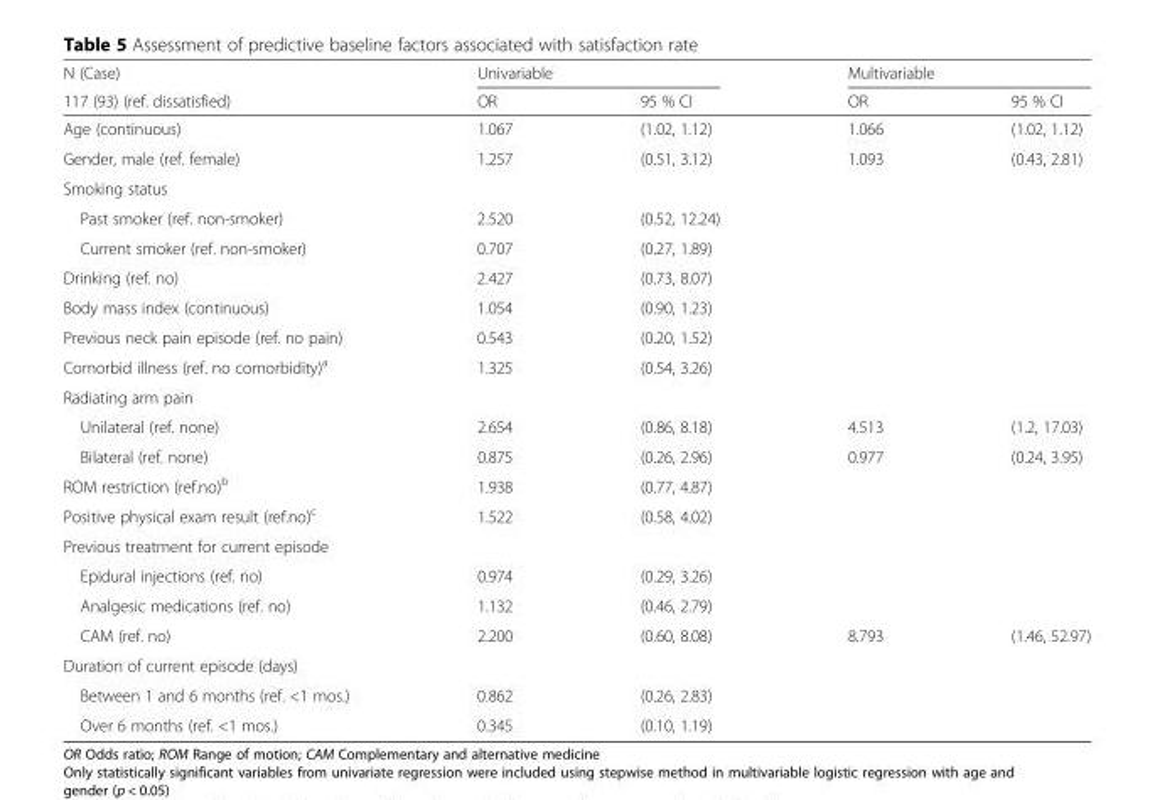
<table><thead><tr><td rowspan="2">N (Case) 117 (93) (ref. dissatisfied)</td><td colspan="2">Univariable</td><td colspan="2">Multivariable</td></tr><tr><td>OR</td><td>95 % CI</td><td>OR</td><td>95 % CI</td></tr></thead><tbody><tr><td>Age (continuous)</td><td>1.067</td><td>(1.02, 1.12)</td><td>1.066</td><td>(1.02, 1.12)</td></tr><tr><td>Gender, male (ref. female)</td><td>1.257</td><td>(0.51, 3.12)</td><td>1.093</td><td>(0.43, 2.81)</td></tr><tr><td colspan="5">Smoking status</td></tr><tr><td>Past smoker (ref. non-smoker)</td><td>2.520</td><td>(0.52, 12.24)</td><td></td><td></td></tr><tr><td>Current smoker (ref. non-smoker)</td><td>0.707</td><td>(0.27, 1.89)</td><td></td><td></td></tr><tr><td>Drinking (ref. no)</td><td>2.427</td><td>(0.73, 8.07)</td><td></td><td></td></tr><tr><td>Body mass index (continuous)</td><td>1.054</td><td>(0.90, 1.23)</td><td></td><td></td></tr><tr><td>Previous neck pain episode (ref. no pain)</td><td>0.543</td><td>(0.20, 1.52)</td><td></td><td></td></tr><tr><td>Comorbid illness (ref. no comorbidity)<sup>a</sup></td><td>1.325</td><td>(0.54, 3.26)</td><td></td><td></td></tr><tr><td colspan="5">Radiating arm pain</td></tr><tr><td>Unilateral (ref. none)</td><td>2.654</td><td>(0.86, 8.18)</td><td>4.513</td><td>(1.2, 17.03)</td></tr><tr><td>Bilateral (ref. none)</td><td>0.875</td><td>(0.26, 2.96)</td><td>0.977</td><td>(0.24, 3.95)</td></tr><tr><td>ROM restriction (ref.no)<sup>b</sup></td><td>1.938</td><td>(0.77, 4.87)</td><td></td><td></td></tr><tr><td>Positive physical exam result (ref.no)<sup>c</sup></td><td>1.522</td><td>(0.58, 4.02)</td><td></td><td></td></tr><tr><td colspan="5">Previous treatment for current episode</td></tr><tr><td>Epidural injections (ref. no)</td><td>0.974</td><td>(0.29, 3.26)</td><td></td><td></td></tr><tr><td>Analgesic medications (ref. no)</td><td>1.132</td><td>(0.46, 2.79)</td><td></td><td></td></tr><tr><td>CAM (ref. no)</td><td>2.200</td><td>(0.60, 8.08)</td><td>8.793</td><td>(1.46, 52.97)</td></tr><tr><td colspan="5">Duration of current episode (days)</td></tr><tr><td>Between 1 and 6 months (ref. &lt;1 mos.)</td><td>0.862</td><td>(0.26, 2.83)</td><td></td><td></td></tr><tr><td>Over 6 months (ref. &lt;1 mos.)</td><td>0.345</td><td>(0.10, 1.19)</td><td></td><td></td></tr></tbody></table>